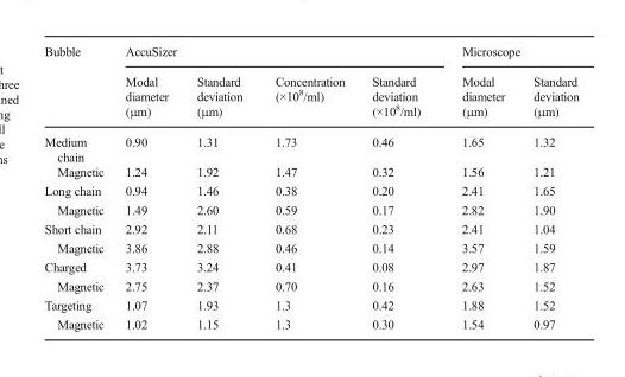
<table><thead><tr><td rowspan="2">Bubble</td><td colspan="4">AccuSizer</td><td colspan="2">Microscope</td></tr><tr><td>Modal diameter (μm)</td><td>Standard deviation (μm)</td><td>Concentration (×10<sup>8</sup>/ml)</td><td>Standard deviation (×10<sup>8</sup>/ml)</td><td>Modal diameter (μm)</td><td>Standard deviation (μm)</td></tr></thead><tbody><tr><td>Medium chain</td><td>0.90</td><td>1.31</td><td>1.73</td><td>0.46</td><td>1.65</td><td>1.32</td></tr><tr><td>Magnetic</td><td>1.24</td><td>1.92</td><td>1.47</td><td>0.32</td><td>1.56</td><td>1.21</td></tr><tr><td>Long chain</td><td>0.94</td><td>1.46</td><td>0.38</td><td>0.20</td><td>2.41</td><td>1.65</td></tr><tr><td>Magnetic</td><td>1.49</td><td>2.60</td><td>0.59</td><td>0.17</td><td>2.82</td><td>1.90</td></tr><tr><td>Short chain</td><td>2.92</td><td>2.11</td><td>0.68</td><td>0.23</td><td>2.41</td><td>1.04</td></tr><tr><td>Magnetic</td><td>3.86</td><td>2.88</td><td>0.46</td><td>0.14</td><td>3.57</td><td>1.59</td></tr><tr><td>Charged</td><td>3.73</td><td>3.24</td><td>0.41</td><td>0.08</td><td>2.97</td><td>1.87</td></tr><tr><td>Magnetic</td><td>2.75</td><td>2.37</td><td>0.70</td><td>0.16</td><td>2.63</td><td>1.52</td></tr><tr><td>Targeting</td><td>1.07</td><td>1.93</td><td>1.3</td><td>0.42</td><td>1.88</td><td>1.52</td></tr><tr><td>Magnetic</td><td>1.02</td><td>1.15</td><td>1.3</td><td>0.30</td><td>1.54</td><td>0.97</td></tr></tbody></table>